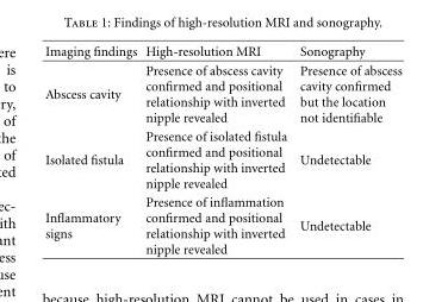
<table><thead><tr><td>Imaging findings</td><td>High-resolution MRI</td><td>Sonography</td></tr></thead><tbody><tr><td>Abscess cavity</td><td>Presence of abscess cavity confirmed and positional relationship with inverted nipple revealed</td><td>Presence of abscess cavity confirmed but the location not identifiable</td></tr><tr><td>Isolated fistula</td><td>Presence of isolated fistula confirmed and positional relationship with inverted nipple revealed</td><td>Undetectable</td></tr><tr><td>Inflammatory signs</td><td>Presence of inflammation confirmed and positional relationship with inverted nipple revealed</td><td>Undetectable</td></tr></tbody></table>